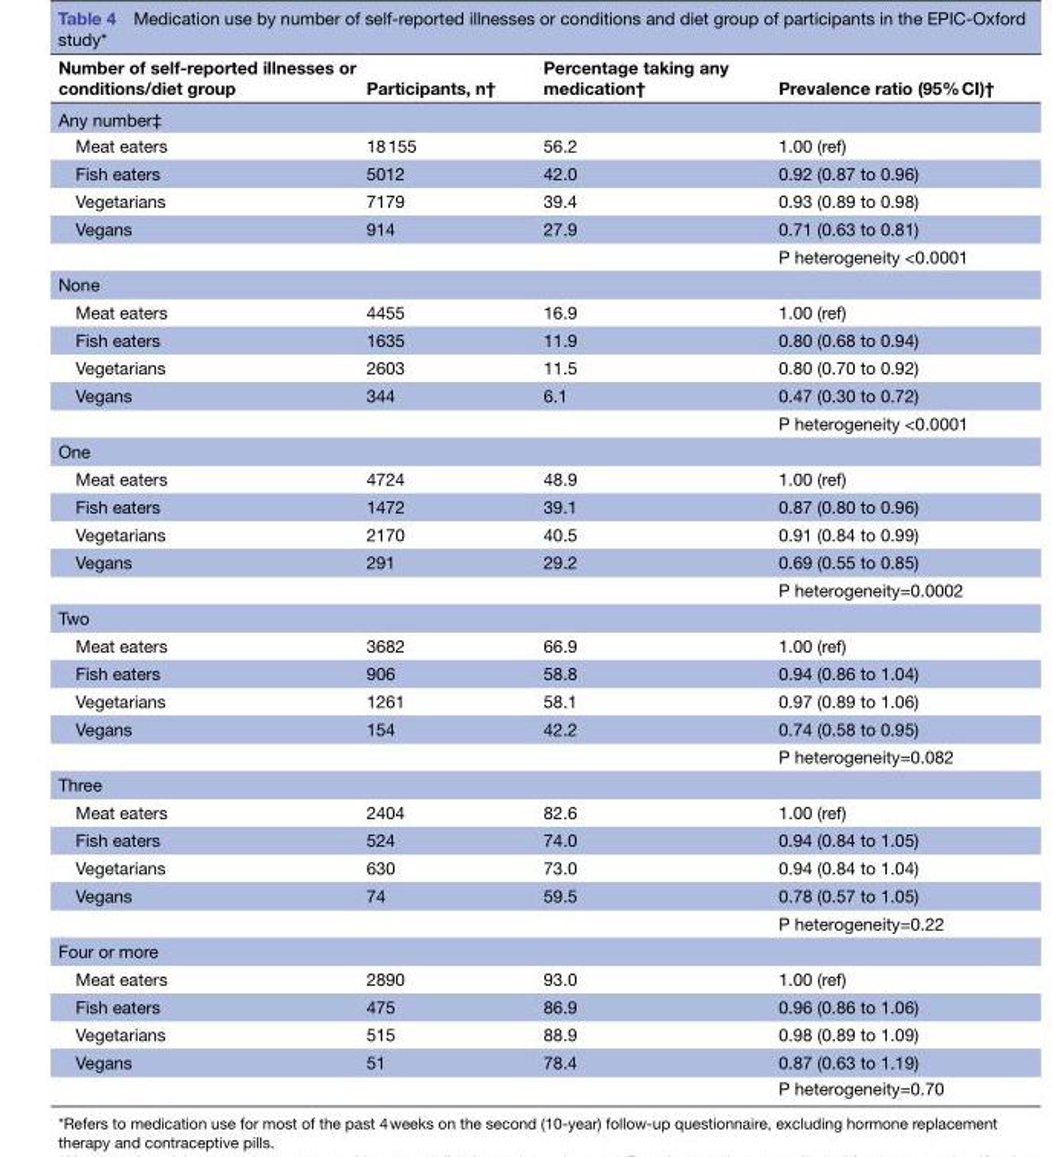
<table><thead><tr><td>Number of self-reported illnesses or conditions/diet group</td><td>Participants, n†</td><td>Percentage taking any medication†</td><td>Prevalence ratio (95% CI)†</td></tr></thead><tbody><tr><td colspan="4">Any number‡</td></tr><tr><td>Meat eaters</td><td>18 155</td><td>56.2</td><td>1.00 (ref)</td></tr><tr><td>Fish eaters</td><td>5012</td><td>42.0</td><td>0.92 (0.87 to 0.96)</td></tr><tr><td>Vegetarians</td><td>7179</td><td>39.4</td><td>0.93 (0.89 to 0.98)</td></tr><tr><td rowspan="2">Vegans</td><td>914</td><td>27.9</td><td>0.71 (0.63 to 0.81)</td></tr><tr><td></td><td></td><td>P heterogeneity &lt;0.0001</td></tr><tr><td colspan="4">None</td></tr><tr><td>Meat eaters</td><td>4455</td><td>16.9</td><td>1.00 (ref)</td></tr><tr><td>Fish eaters</td><td>1635</td><td>11.9</td><td>0.80 (0.68 to 0.94)</td></tr><tr><td>Vegetarians</td><td>2603</td><td>11.5</td><td>0.80 (0.70 to 0.92)</td></tr><tr><td rowspan="2">Vegans</td><td>344</td><td>6.1</td><td>0.47 (0.30 to 0.72)</td></tr><tr><td></td><td></td><td>P heterogeneity &lt;0.0001</td></tr><tr><td colspan="4">One</td></tr><tr><td>Meat eaters</td><td>4724</td><td>48.9</td><td>1.00 (ref)</td></tr><tr><td>Fish eaters</td><td>1472</td><td>39.1</td><td>0.87 (0.80 to 0.96)</td></tr><tr><td>Vegetarians</td><td>2170</td><td>40.5</td><td>0.91 (0.84 to 0.99)</td></tr><tr><td rowspan="2">Vegans</td><td>291</td><td>29.2</td><td>0.69 (0.55 to 0.85)</td></tr><tr><td></td><td></td><td>P heterogeneity=0.0002</td></tr><tr><td colspan="4">Two</td></tr><tr><td>Meat eaters</td><td>3682</td><td>66.9</td><td>1.00 (ref)</td></tr><tr><td>Fish eaters</td><td>906</td><td>58.8</td><td>0.94 (0.86 to 1.04)</td></tr><tr><td>Vegetarians</td><td>1261</td><td>58.1</td><td>0.97 (0.89 to 1.06)</td></tr><tr><td rowspan="2">Vegans</td><td>154</td><td>42.2</td><td>0.74 (0.58 to 0.95)</td></tr><tr><td></td><td></td><td>P heterogeneity=0.082</td></tr><tr><td colspan="4">Three</td></tr><tr><td>Meat eaters</td><td>2404</td><td>82.6</td><td>1.00 (ref)</td></tr><tr><td>Fish eaters</td><td>524</td><td>74.0</td><td>0.94 (0.84 to 1.05)</td></tr><tr><td>Vegetarians</td><td>630</td><td>73.0</td><td>0.94 (0.84 to 1.04)</td></tr><tr><td rowspan="2">Vegans</td><td>74</td><td>59.5</td><td>0.78 (0.57 to 1.05)</td></tr><tr><td></td><td></td><td>P heterogeneity=0.22</td></tr><tr><td colspan="4">Four or more</td></tr><tr><td>Meat eaters</td><td>2890</td><td>93.0</td><td>1.00 (ref)</td></tr><tr><td>Fish eaters</td><td>475</td><td>86.9</td><td>0.96 (0.86 to 1.06)</td></tr><tr><td>Vegetarians</td><td>515</td><td>88.9</td><td>0.98 (0.89 to 1.09)</td></tr><tr><td rowspan="2">Vegans</td><td>51</td><td>78.4</td><td>0.87 (0.63 to 1.19)</td></tr><tr><td></td><td></td><td>P heterogeneity=0.70</td></tr></tbody></table>